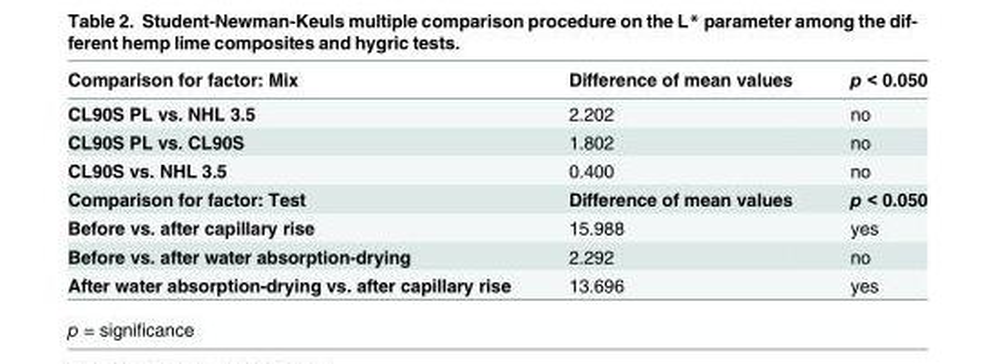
<table><thead><tr><td>Comparison for factor: Mix</td><td>Difference of mean values</td><td>p &lt; 0.050</td></tr></thead><tbody><tr><td>CL90S PL vs. NHL 3.5</td><td>2.202</td><td>no</td></tr><tr><td>CL90S PL vs. CL90S</td><td>1.802</td><td>no</td></tr><tr><td>CL90S vs. NHL 3.5</td><td>0.400</td><td>no</td></tr><tr><td>Comparison for factor: Test</td><td>Difference of mean values</td><td>p &lt; 0.050</td></tr><tr><td>Before vs. after capillary rise</td><td>15.988</td><td>yes</td></tr><tr><td>Before vs. after water absorption-drying</td><td>2.292</td><td>no</td></tr><tr><td>After water absorption-drying vs. after capillary rise</td><td>13.696</td><td>yes</td></tr></tbody></table>